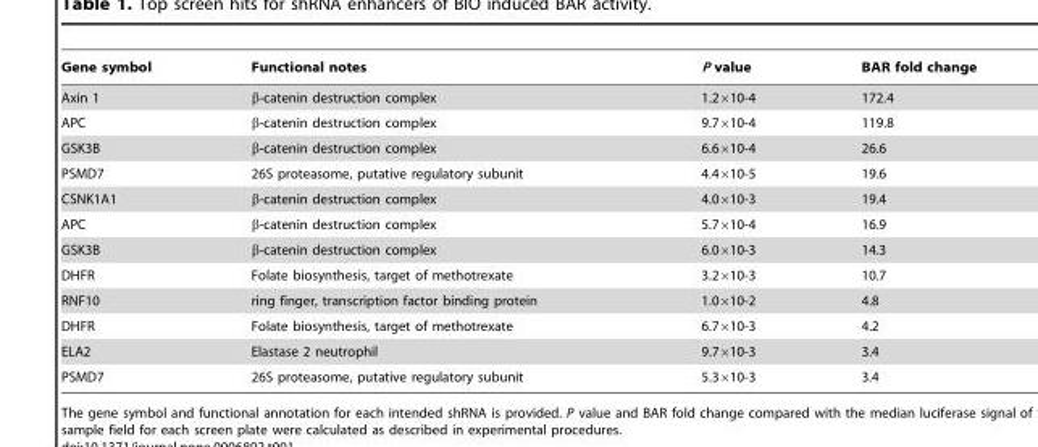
<table><thead><tr><td>Gene symbol</td><td>Functional notes</td><td>P value</td><td>BAR fold change</td></tr></thead><tbody><tr><td>Axin 1</td><td>β-catenin destruction complex</td><td>1.2×10-4</td><td>172.4</td></tr><tr><td>APC</td><td>β-catenin destruction complex</td><td>9.7×10-4</td><td>119.8</td></tr><tr><td>GSK3B</td><td>β-catenin destruction complex</td><td>6.6×10-4</td><td>26.6</td></tr><tr><td>PSMD7</td><td>26S proteasome, putative regulatory subunit</td><td>4.4×10-5</td><td>19.6</td></tr><tr><td>CSNK1A1</td><td>β-catenin destruction complex</td><td>4.0×10-3</td><td>19.4</td></tr><tr><td>APC</td><td>β-catenin destruction complex</td><td>5.7×10-4</td><td>16.9</td></tr><tr><td>GSK3B</td><td>β-catenin destruction complex</td><td>6.0×10-3</td><td>14.3</td></tr><tr><td>DHFR</td><td>Folate biosynthesis, target of methotrexate</td><td>3.2×10-3</td><td>10.7</td></tr><tr><td>RNF10</td><td>ring finger, transcription factor binding protein</td><td>1.0×10-2</td><td>4.8</td></tr><tr><td>DHFR</td><td>Folate biosynthesis, target of methotrexate</td><td>6.7×10-3</td><td>4.2</td></tr><tr><td>ELA2</td><td>Elastase 2 neutrophil</td><td>9.7×10-3</td><td>3.4</td></tr><tr><td>PSMD7</td><td>26S proteasome, putative regulatory subunit</td><td>5.3×10-3</td><td>3.4</td></tr></tbody></table>